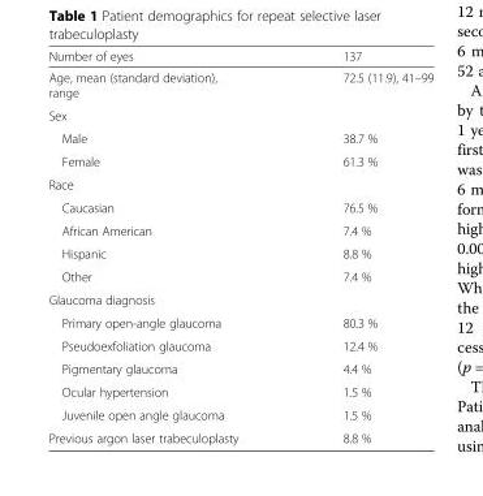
<table><thead><tr><td>Number of eyes</td><td>137</td></tr></thead><tbody><tr><td>Age, mean (standard deviation), range</td><td>72.5 (11.9), 41–99</td></tr><tr><td colspan="2">Sex</td></tr><tr><td>Male</td><td>38.7 %</td></tr><tr><td>Female</td><td>61.3 %</td></tr><tr><td colspan="2">Race</td></tr><tr><td>Caucasian</td><td>76.5 %</td></tr><tr><td>African American</td><td>7.4 %</td></tr><tr><td>Hispanic</td><td>8.8 %</td></tr><tr><td>Other</td><td>7.4 %</td></tr><tr><td colspan="2">Glaucoma diagnosis</td></tr><tr><td>Primary open-angle glaucoma</td><td>80.3 %</td></tr><tr><td>Pseudoexfoliation glaucoma</td><td>12.4 %</td></tr><tr><td>Pigmentary glaucoma</td><td>4.4 %</td></tr><tr><td>Ocular hypertension</td><td>1.5 %</td></tr><tr><td>Juvenile open angle glaucoma</td><td>1.5 %</td></tr><tr><td>Previous argon laser trabeculoplasty</td><td>8.8 %</td></tr></tbody></table>